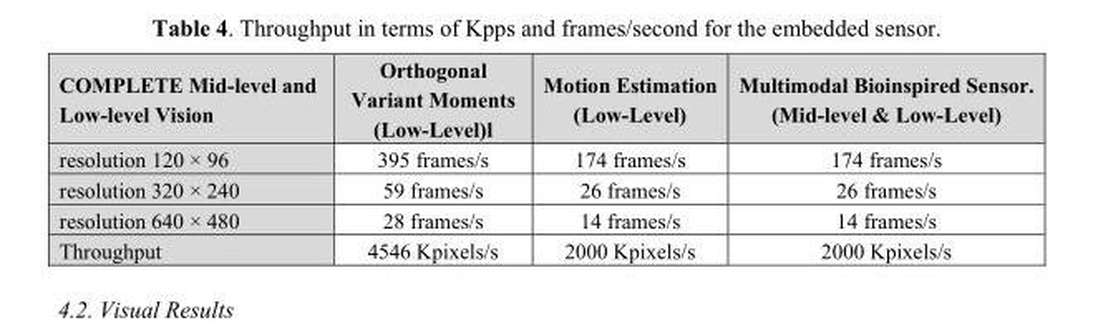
<table><thead><tr><td>COMPLETE Mid-level and Low-level Vision</td><td>Orthogonal Variant Moments (Low-Level)l</td><td>Motion Estimation (Low-Level)</td><td>Multimodal Bioinspired Sensor. (Mid-level &amp; Low-Level)</td></tr></thead><tbody><tr><td>resolution 120 × 96</td><td>395 frames/s</td><td>174 frames/s</td><td>174 frames/s</td></tr><tr><td>resolution 320 × 240</td><td>59 frames/s</td><td>26 frames/s</td><td>26 frames/s</td></tr><tr><td>resolution 640 × 480</td><td>28 frames/s</td><td>14 frames/s</td><td>14 frames/s</td></tr><tr><td>Throughput</td><td>4546 Kpixels/s</td><td>2000 Kpixels/s</td><td>2000 Kpixels/s</td></tr></tbody></table>